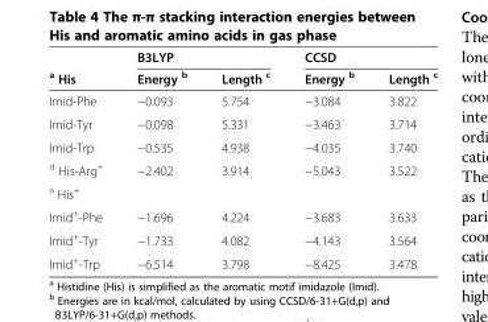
<table><thead><tr><td rowspan="2"><sup>a</sup> His</td><td colspan="2">B3LYP</td><td colspan="2">CCSD</td></tr><tr><td>Energy <sup>b</sup></td><td>Length <sup>c</sup></td><td>Energy <sup>b</sup></td><td>Length <sup>c</sup></td></tr></thead><tbody><tr><td>Imid-Phe</td><td>−0.093</td><td>5.754</td><td>−3.084</td><td>3.822</td></tr><tr><td>Imid-Tyr</td><td>−0.098</td><td>5.331</td><td>−3.463</td><td>3.714</td></tr><tr><td>Imid-Trp</td><td>−0.535</td><td>4.938</td><td>−4.035</td><td>3.740</td></tr><tr><td><sup>d</sup> His-Arg<sup>+</sup></td><td>−2.402</td><td>3.914</td><td>−5.043</td><td>3.522</td></tr><tr><td colspan="5"><sup>a</sup> His<sup>+</sup></td></tr><tr><td>Imid<sup>+</sup>-Phe</td><td>−1.696</td><td>4.224</td><td>−3.683</td><td>3.633</td></tr><tr><td>Imid<sup>+</sup>-Tyr</td><td>−1.733</td><td>4.082</td><td>−4.143</td><td>3.564</td></tr><tr><td>Imid<sup>+</sup>-Trp</td><td>−6.514</td><td>3.798</td><td>−8.425</td><td>3.478</td></tr></tbody></table>